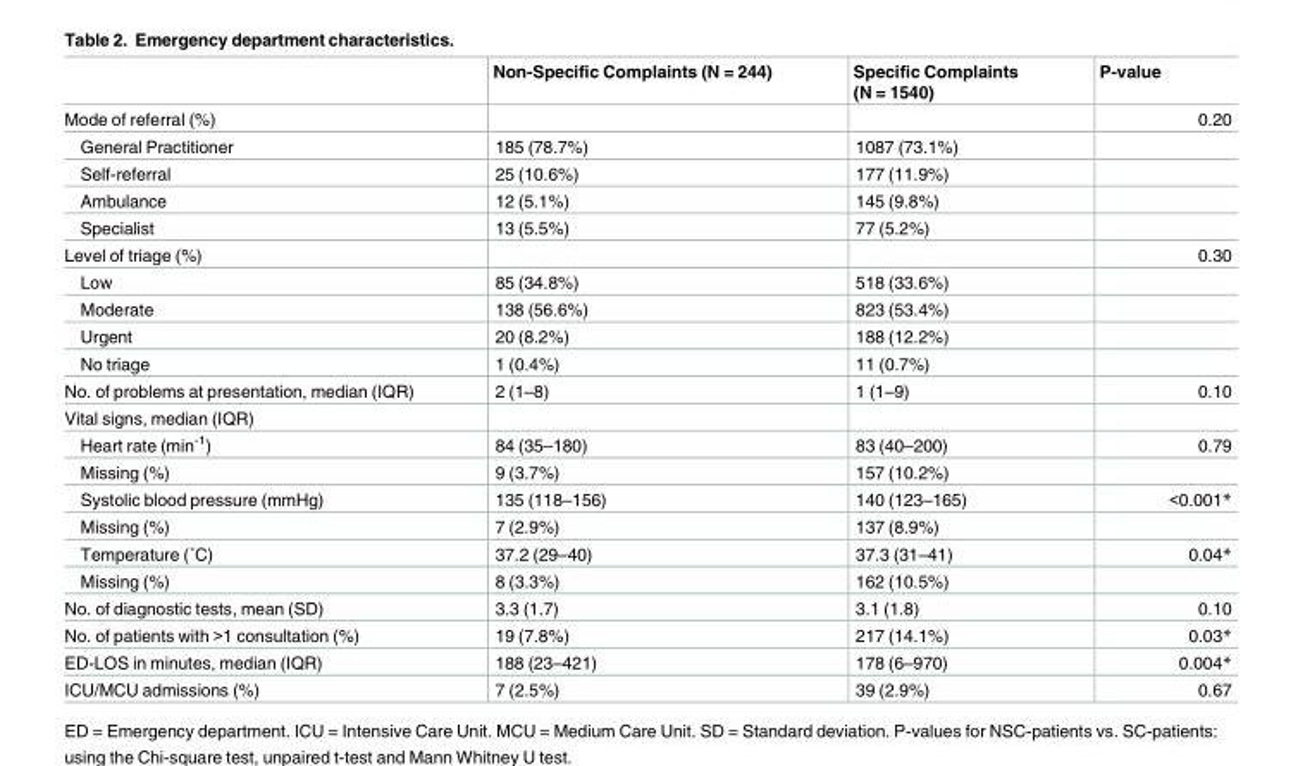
<table><thead><tr><td></td><td>Non-Specific Complaints (N = 244)</td><td>Specific Complaints (N = 1540)</td><td>P-value</td></tr></thead><tbody><tr><td>Mode of referral (%)</td><td></td><td></td><td>0.20</td></tr><tr><td>General Practitioner</td><td>185 (78.7%)</td><td>1087 (73.1%)</td><td></td></tr><tr><td>Self-referral</td><td>25 (10.6%)</td><td>177 (11.9%)</td><td></td></tr><tr><td>Ambulance</td><td>12 (5.1%)</td><td>145 (9.8%)</td><td></td></tr><tr><td>Specialist</td><td>13 (5.5%)</td><td>77 (5.2%)</td><td></td></tr><tr><td>Level of triage (%)</td><td></td><td></td><td>0.30</td></tr><tr><td>Low</td><td>85 (34.8%)</td><td>518 (33.6%)</td><td></td></tr><tr><td>Moderate</td><td>138 (56.6%)</td><td>823 (53.4%)</td><td></td></tr><tr><td>Urgent</td><td>20 (8.2%)</td><td>188 (12.2%)</td><td></td></tr><tr><td>No triage</td><td>1 (0.4%)</td><td>11 (0.7%)</td><td></td></tr><tr><td>No. of problems at presentation, median (IQR)</td><td>2 (1–8)</td><td>1 (1–9)</td><td>0.10</td></tr><tr><td colspan="4">Vital signs, median (IQR)</td></tr><tr><td>Heart rate (min<sup>-1</sup>)</td><td>84 (35–180)</td><td>83 (40–200)</td><td>0.79</td></tr><tr><td>Missing (%)</td><td>9 (3.7%)</td><td>157 (10.2%)</td><td></td></tr><tr><td>Systolic blood pressure (mmHg)</td><td>135 (118–156)</td><td>140 (123–165)</td><td>&lt;0.001*</td></tr><tr><td>Missing (%)</td><td>7 (2.9%)</td><td>137 (8.9%)</td><td></td></tr><tr><td>Temperature (˚C)</td><td>37.2 (29–40)</td><td>37.3 (31–41)</td><td>0.04*</td></tr><tr><td>Missing (%)</td><td>8 (3.3%)</td><td>162 (10.5%)</td><td></td></tr><tr><td>No. of diagnostic tests, mean (SD)</td><td>3.3 (1.7)</td><td>3.1 (1.8)</td><td>0.10</td></tr><tr><td>No. of patients with &gt;1 consultation (%)</td><td>19 (7.8%)</td><td>217 (14.1%)</td><td>0.03*</td></tr><tr><td>ED-LOS in minutes, median (IQR)</td><td>188 (23–421)</td><td>178 (6–970)</td><td>0.004*</td></tr><tr><td>ICU/MCU admissions (%)</td><td>7 (2.5%)</td><td>39 (2.9%)</td><td>0.67</td></tr></tbody></table>